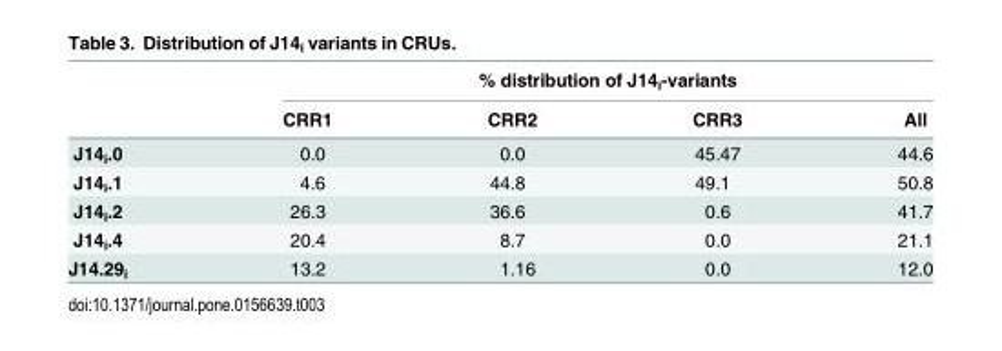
<table><thead><tr><td rowspan="2"></td><td colspan="4">% distribution of J14<sub>i</sub>-variants</td></tr><tr><td>CRR1</td><td>CRR2</td><td>CRR3</td><td>All</td></tr></thead><tbody><tr><td>J14<sub>i</sub>.0</td><td>0.0</td><td>0.0</td><td>45.47</td><td>44.6</td></tr><tr><td>J14<sub>i</sub>.1</td><td>4.6</td><td>44.8</td><td>49.1</td><td>50.8</td></tr><tr><td>J14<sub>i</sub>.2</td><td>26.3</td><td>36.6</td><td>0.6</td><td>41.7</td></tr><tr><td>J14<sub>i</sub>.4</td><td>20.4</td><td>8.7</td><td>0.0</td><td>21.1</td></tr><tr><td>J14.29<sub>i</sub></td><td>13.2</td><td>1.16</td><td>0.0</td><td>12.0</td></tr></tbody></table>